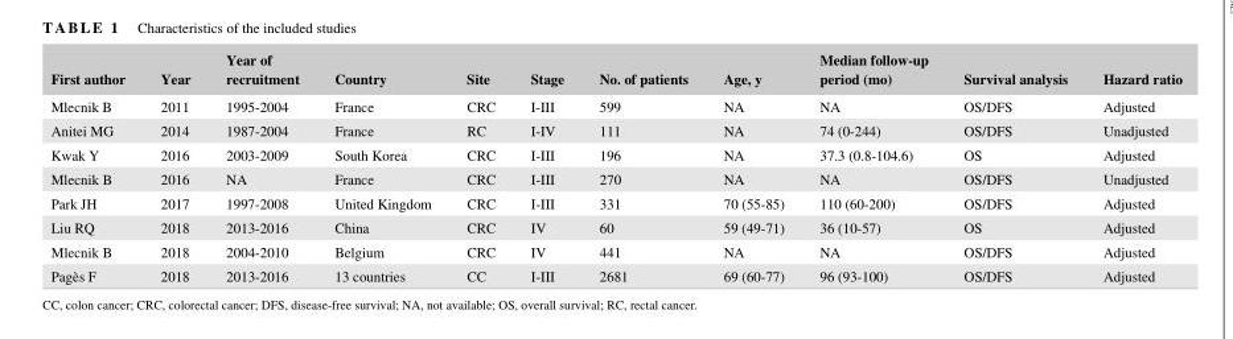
<table><thead><tr><td>First author</td><td>Year</td><td>Year of recruitment</td><td>Country</td><td>Site</td><td>Stage</td><td>No. of patients</td><td>Age, y</td><td>Median follow‐up period (mo)</td><td>Survival analysis</td><td>Hazard ratio</td></tr></thead><tbody><tr><td>Mlecnik B</td><td>2011</td><td>1995‐2004</td><td>France</td><td>CRC</td><td>I‐III</td><td>599</td><td>NA</td><td>NA</td><td>OS/DFS</td><td>Adjusted</td></tr><tr><td>Anitei MG</td><td>2014</td><td>1987‐2004</td><td>France</td><td>RC</td><td>I‐IV</td><td>111</td><td>NA</td><td>74 (0‐244)</td><td>OS/DFS</td><td>Unadjusted</td></tr><tr><td>Kwak Y</td><td>2016</td><td>2003‐2009</td><td>South Korea</td><td>CRC</td><td>I‐III</td><td>196</td><td>NA</td><td>37.3 (0.8‐104.6)</td><td>OS</td><td>Adjusted</td></tr><tr><td>Mlecnik B</td><td>2016</td><td>NA</td><td>France</td><td>CRC</td><td>I‐III</td><td>270</td><td>NA</td><td>NA</td><td>OS/DFS</td><td>Unadjusted</td></tr><tr><td>Park JH</td><td>2017</td><td>1997‐2008</td><td>United Kingdom</td><td>CRC</td><td>I‐III</td><td>331</td><td>70 (55‐85)</td><td>110 (60‐200)</td><td>OS/DFS</td><td>Adjusted</td></tr><tr><td>Liu RQ</td><td>2018</td><td>2013‐2016</td><td>China</td><td>CRC</td><td>IV</td><td>60</td><td>59 (49‐71)</td><td>36 (10‐57)</td><td>OS</td><td>Adjusted</td></tr><tr><td>Mlecnik B</td><td>2018</td><td>2004‐2010</td><td>Belgium</td><td>CRC</td><td>IV</td><td>441</td><td>NA</td><td>NA</td><td>OS/DFS</td><td>Adjusted</td></tr><tr><td>Pagès F</td><td>2018</td><td>2013‐2016</td><td>13 countries</td><td>CC</td><td>I‐III</td><td>2681</td><td>69 (60‐77)</td><td>96 (93‐100)</td><td>OS/DFS</td><td>Adjusted</td></tr></tbody></table>